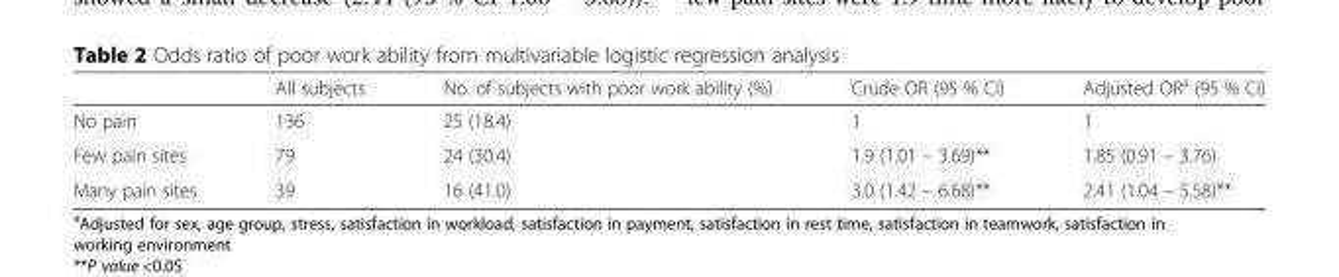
<table><thead><tr><td></td><td>All subjects</td><td>No. of subjects with poor work ability (%)</td><td>Crude OR (95 % CI)</td><td>Adjusted OR<sup>a</sup> (95 % CI)</td></tr></thead><tbody><tr><td>No pain</td><td>136</td><td>25 (18.4)</td><td>1</td><td>1</td></tr><tr><td>Few pain sites</td><td>79</td><td>24 (30.4)</td><td>1.9 (1.01 – 3.69)**</td><td>1.85 (0.91 – 3.76)</td></tr><tr><td>Many pain sites</td><td>39</td><td>16 (41.0)</td><td>3.0 (1.42 – 6.68)**</td><td>2.41 (1.04 – 5.58)**</td></tr></tbody></table>